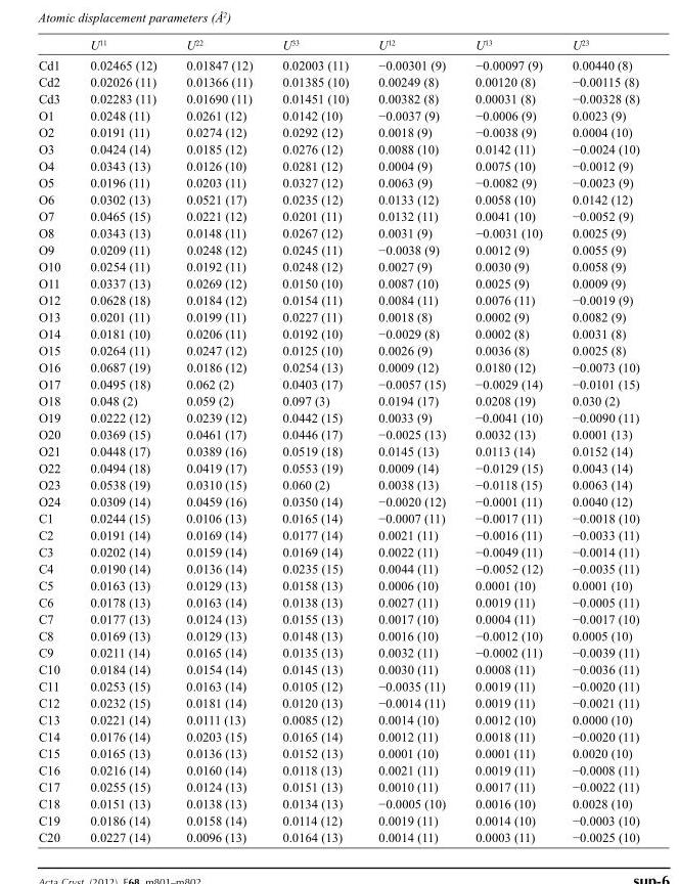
<table><thead><tr><td></td><td>U<sup>11</sup></td><td>U<sup>22</sup></td><td>U<sup>33</sup></td><td>U<sup>12</sup></td><td>U<sup>13</sup></td><td>U<sup>23</sup></td></tr></thead><tbody><tr><td>Cd1</td><td>0.02465 (12)</td><td>0.01847 (12)</td><td>0.02003 (11)</td><td>−0.00301 (9)</td><td>−0.00097 (9)</td><td>0.00440 (8)</td></tr><tr><td>Cd2</td><td>0.02026 (11)</td><td>0.01366 (11)</td><td>0.01385 (10)</td><td>0.00249 (8)</td><td>0.00120 (8)</td><td>−0.00115 (8)</td></tr><tr><td>Cd3</td><td>0.02283 (11)</td><td>0.01690 (11)</td><td>0.01451 (10)</td><td>0.00382 (8)</td><td>0.00031 (8)</td><td>−0.00328 (8)</td></tr><tr><td>O1</td><td>0.0248 (11)</td><td>0.0261 (12)</td><td>0.0142 (10)</td><td>−0.0037 (9)</td><td>−0.0006 (9)</td><td>0.0023 (9)</td></tr><tr><td>O2</td><td>0.0191 (11)</td><td>0.0274 (12)</td><td>0.0292 (12)</td><td>0.0018 (9)</td><td>−0.0038 (9)</td><td>0.0004 (10)</td></tr><tr><td>O3</td><td>0.0424 (14)</td><td>0.0185 (12)</td><td>0.0276 (12)</td><td>0.0088 (10)</td><td>0.0142 (11)</td><td>−0.0024 (10)</td></tr><tr><td>O4</td><td>0.0343 (13)</td><td>0.0126 (10)</td><td>0.0281 (12)</td><td>0.0004 (9)</td><td>0.0075 (10)</td><td>−0.0012 (9)</td></tr><tr><td>O5</td><td>0.0196 (11)</td><td>0.0203 (11)</td><td>0.0327 (12)</td><td>0.0063 (9)</td><td>−0.0082 (9)</td><td>−0.0023 (9)</td></tr><tr><td>O6</td><td>0.0302 (13)</td><td>0.0521 (17)</td><td>0.0235 (12)</td><td>0.0133 (12)</td><td>0.0058 (10)</td><td>0.0142 (12)</td></tr><tr><td>O7</td><td>0.0465 (15)</td><td>0.0221 (12)</td><td>0.0201 (11)</td><td>0.0132 (11)</td><td>0.0041 (10)</td><td>−0.0052 (9)</td></tr><tr><td>O8</td><td>0.0343 (13)</td><td>0.0148 (11)</td><td>0.0267 (12)</td><td>0.0031 (9)</td><td>−0.0031 (10)</td><td>0.0025 (9)</td></tr><tr><td>O9</td><td>0.0209 (11)</td><td>0.0248 (12)</td><td>0.0245 (11)</td><td>−0.0038 (9)</td><td>0.0012 (9)</td><td>0.0055 (9)</td></tr><tr><td>O10</td><td>0.0254 (11)</td><td>0.0192 (11)</td><td>0.0248 (12)</td><td>0.0027 (9)</td><td>0.0030 (9)</td><td>0.0058 (9)</td></tr><tr><td>O11</td><td>0.0337 (13)</td><td>0.0269 (12)</td><td>0.0150 (10)</td><td>0.0087 (10)</td><td>0.0025 (9)</td><td>0.0009 (9)</td></tr><tr><td>O12</td><td>0.0628 (18)</td><td>0.0184 (12)</td><td>0.0154 (11)</td><td>0.0084 (11)</td><td>0.0076 (11)</td><td>−0.0019 (9)</td></tr><tr><td>O13</td><td>0.0201 (11)</td><td>0.0199 (11)</td><td>0.0227 (11)</td><td>0.0018 (8)</td><td>0.0002 (9)</td><td>0.0082 (9)</td></tr><tr><td>O14</td><td>0.0181 (10)</td><td>0.0206 (11)</td><td>0.0192 (10)</td><td>−0.0029 (8)</td><td>0.0002 (8)</td><td>0.0031 (8)</td></tr><tr><td>O15</td><td>0.0264 (11)</td><td>0.0247 (12)</td><td>0.0125 (10)</td><td>0.0026 (9)</td><td>0.0036 (8)</td><td>0.0025 (8)</td></tr><tr><td>O16</td><td>0.0687 (19)</td><td>0.0186 (12)</td><td>0.0254 (13)</td><td>0.0009 (12)</td><td>0.0180 (12)</td><td>−0.0073 (10)</td></tr><tr><td>O17</td><td>0.0495 (18)</td><td>0.062 (2)</td><td>0.0403 (17)</td><td>−0.0057 (15)</td><td>−0.0029 (14)</td><td>−0.0101 (15)</td></tr><tr><td>O18</td><td>0.048 (2)</td><td>0.059 (2)</td><td>0.097 (3)</td><td>0.0194 (17)</td><td>0.0208 (19)</td><td>0.030 (2)</td></tr><tr><td>O19</td><td>0.0222 (12)</td><td>0.0239 (12)</td><td>0.0442 (15)</td><td>0.0033 (9)</td><td>−0.0041 (10)</td><td>−0.0090 (11)</td></tr><tr><td>O20</td><td>0.0369 (15)</td><td>0.0461 (17)</td><td>0.0446 (17)</td><td>−0.0025 (13)</td><td>0.0032 (13)</td><td>0.0001 (13)</td></tr><tr><td>O21</td><td>0.0448 (17)</td><td>0.0389 (16)</td><td>0.0519 (18)</td><td>0.0145 (13)</td><td>0.0113 (14)</td><td>0.0152 (14)</td></tr><tr><td>O22</td><td>0.0494 (18)</td><td>0.0419 (17)</td><td>0.0553 (19)</td><td>0.0009 (14)</td><td>−0.0129 (15)</td><td>0.0043 (14)</td></tr><tr><td>O23</td><td>0.0538 (19)</td><td>0.0310 (15)</td><td>0.060 (2)</td><td>0.0038 (13)</td><td>−0.0118 (15)</td><td>0.0063 (14)</td></tr><tr><td>O24</td><td>0.0309 (14)</td><td>0.0459 (16)</td><td>0.0350 (14)</td><td>−0.0020 (12)</td><td>−0.0001 (11)</td><td>0.0040 (12)</td></tr><tr><td>C1</td><td>0.0244 (15)</td><td>0.0106 (13)</td><td>0.0165 (14)</td><td>−0.0007 (11)</td><td>−0.0017 (11)</td><td>−0.0018 (10)</td></tr><tr><td>C2</td><td>0.0191 (14)</td><td>0.0169 (14)</td><td>0.0177 (14)</td><td>0.0021 (11)</td><td>−0.0016 (11)</td><td>−0.0033 (11)</td></tr><tr><td>C3</td><td>0.0202 (14)</td><td>0.0159 (14)</td><td>0.0169 (14)</td><td>0.0022 (11)</td><td>−0.0049 (11)</td><td>−0.0014 (11)</td></tr><tr><td>C4</td><td>0.0190 (14)</td><td>0.0136 (14)</td><td>0.0235 (15)</td><td>0.0044 (11)</td><td>−0.0052 (12)</td><td>−0.0035 (11)</td></tr><tr><td>C5</td><td>0.0163 (13)</td><td>0.0129 (13)</td><td>0.0158 (13)</td><td>0.0006 (10)</td><td>0.0001 (10)</td><td>0.0001 (10)</td></tr><tr><td>C6</td><td>0.0178 (13)</td><td>0.0163 (14)</td><td>0.0138 (13)</td><td>0.0027 (11)</td><td>0.0019 (11)</td><td>−0.0005 (11)</td></tr><tr><td>C7</td><td>0.0177 (13)</td><td>0.0124 (13)</td><td>0.0155 (13)</td><td>0.0017 (10)</td><td>0.0004 (11)</td><td>−0.0017 (10)</td></tr><tr><td>C8</td><td>0.0169 (13)</td><td>0.0129 (13)</td><td>0.0148 (13)</td><td>0.0016 (10)</td><td>−0.0012 (10)</td><td>0.0005 (10)</td></tr><tr><td>C9</td><td>0.0211 (14)</td><td>0.0165 (14)</td><td>0.0135 (13)</td><td>0.0032 (11)</td><td>−0.0002 (11)</td><td>−0.0039 (11)</td></tr><tr><td>C10</td><td>0.0184 (14)</td><td>0.0154 (14)</td><td>0.0145 (13)</td><td>0.0030 (11)</td><td>0.0008 (11)</td><td>−0.0036 (11)</td></tr><tr><td>C11</td><td>0.0253 (15)</td><td>0.0163 (14)</td><td>0.0105 (12)</td><td>−0.0035 (11)</td><td>0.0019 (11)</td><td>−0.0020 (11)</td></tr><tr><td>C12</td><td>0.0232 (15)</td><td>0.0181 (14)</td><td>0.0120 (13)</td><td>−0.0014 (11)</td><td>0.0019 (11)</td><td>−0.0021 (11)</td></tr><tr><td>C13</td><td>0.0221 (14)</td><td>0.0111 (13)</td><td>0.0085 (12)</td><td>0.0014 (10)</td><td>0.0012 (10)</td><td>0.0000 (10)</td></tr><tr><td>C14</td><td>0.0176 (14)</td><td>0.0203 (15)</td><td>0.0165 (14)</td><td>0.0012 (11)</td><td>0.0018 (11)</td><td>−0.0020 (11)</td></tr><tr><td>C15</td><td>0.0165 (13)</td><td>0.0136 (13)</td><td>0.0152 (13)</td><td>0.0001 (10)</td><td>0.0001 (11)</td><td>0.0020 (10)</td></tr><tr><td>C16</td><td>0.0216 (14)</td><td>0.0160 (14)</td><td>0.0118 (13)</td><td>0.0021 (11)</td><td>0.0019 (11)</td><td>−0.0008 (11)</td></tr><tr><td>C17</td><td>0.0255 (15)</td><td>0.0124 (13)</td><td>0.0151 (13)</td><td>0.0010 (11)</td><td>0.0017 (11)</td><td>−0.0022 (11)</td></tr><tr><td>C18</td><td>0.0151 (13)</td><td>0.0138 (13)</td><td>0.0134 (13)</td><td>−0.0005 (10)</td><td>0.0016 (10)</td><td>0.0028 (10)</td></tr><tr><td>C19</td><td>0.0186 (14)</td><td>0.0158 (14)</td><td>0.0114 (12)</td><td>0.0019 (11)</td><td>0.0014 (10)</td><td>−0.0003 (10)</td></tr><tr><td>C20</td><td>0.0227 (14)</td><td>0.0096 (13)</td><td>0.0164 (13)</td><td>0.0014 (11)</td><td>0.0003 (11)</td><td>−0.0025 (10)</td></tr></tbody></table>